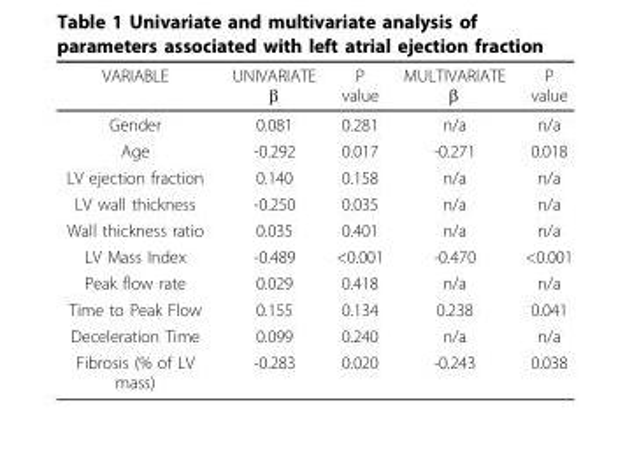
<table><thead><tr><td>VARIABLE</td><td>UNIVARIATE β</td><td>P value</td><td>MULTIVARIATE β</td><td>P value</td></tr></thead><tbody><tr><td>Gender</td><td>0.081</td><td>0.281</td><td>n/a</td><td>n/a</td></tr><tr><td>Age</td><td>-0.292</td><td>0.017</td><td>-0.271</td><td>0.018</td></tr><tr><td>LV ejection fraction</td><td>0.140</td><td>0.158</td><td>n/a</td><td>n/a</td></tr><tr><td>LV wall thickness</td><td>-0.250</td><td>0.035</td><td>n/a</td><td>n/a</td></tr><tr><td>Wall thickness ratio</td><td>0.035</td><td>0.401</td><td>n/a</td><td>n/a</td></tr><tr><td>LV Mass Index</td><td>-0.489</td><td>&lt;0.001</td><td>-0.470</td><td>&lt;0.001</td></tr><tr><td>Peak flow rate</td><td>0.029</td><td>0.418</td><td>n/a</td><td>n/a</td></tr><tr><td>Time to Peak Flow</td><td>0.155</td><td>0.134</td><td>0.238</td><td>0.041</td></tr><tr><td>Deceleration Time</td><td>0.099</td><td>0.240</td><td>n/a</td><td>n/a</td></tr><tr><td>Fibrosis (% of LV mass)</td><td>-0.283</td><td>0.020</td><td>-0.243</td><td>0.038</td></tr></tbody></table>